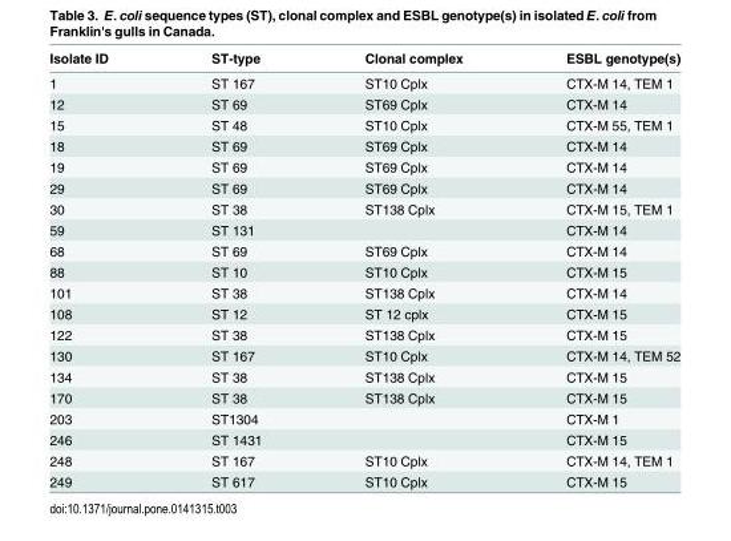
<table><thead><tr><td>Isolate ID</td><td>ST-type</td><td>Clonal complex</td><td>ESBL genotype(s)</td></tr></thead><tbody><tr><td>1</td><td>ST 167</td><td>ST10 Cplx</td><td>CTX-M 14, TEM 1</td></tr><tr><td>12</td><td>ST 69</td><td>ST69 Cplx</td><td>CTX-M 14</td></tr><tr><td>15</td><td>ST 48</td><td>ST10 Cplx</td><td>CTX-M 55, TEM 1</td></tr><tr><td>18</td><td>ST 69</td><td>ST69 Cplx</td><td>CTX-M 14</td></tr><tr><td>19</td><td>ST 69</td><td>ST69 Cplx</td><td>CTX-M 14</td></tr><tr><td>29</td><td>ST 69</td><td>ST69 Cplx</td><td>CTX-M 14</td></tr><tr><td>30</td><td>ST 38</td><td>ST138 Cplx</td><td>CTX-M 15, TEM 1</td></tr><tr><td>59</td><td>ST 131</td><td></td><td>CTX-M 14</td></tr><tr><td>68</td><td>ST 69</td><td>ST69 Cplx</td><td>CTX-M 14</td></tr><tr><td>88</td><td>ST 10</td><td>ST10 Cplx</td><td>CTX-M 15</td></tr><tr><td>101</td><td>ST 38</td><td>ST138 Cplx</td><td>CTX-M 14</td></tr><tr><td>108</td><td>ST 12</td><td>ST 12 cplx</td><td>CTX-M 15</td></tr><tr><td>122</td><td>ST 38</td><td>ST138 Cplx</td><td>CTX-M 15</td></tr><tr><td>130</td><td>ST 167</td><td>ST10 Cplx</td><td>CTX-M 14, TEM 52</td></tr><tr><td>134</td><td>ST 38</td><td>ST138 Cplx</td><td>CTX-M 15</td></tr><tr><td>170</td><td>ST 38</td><td>ST138 Cplx</td><td>CTX-M 15</td></tr><tr><td>203</td><td>ST1304</td><td></td><td>CTX-M 1</td></tr><tr><td>246</td><td>ST 1431</td><td></td><td>CTX-M 15</td></tr><tr><td>248</td><td>ST 167</td><td>ST10 Cplx</td><td>CTX-M 14, TEM 1</td></tr><tr><td>249</td><td>ST 617</td><td>ST10 Cplx</td><td>CTX-M 15</td></tr></tbody></table>